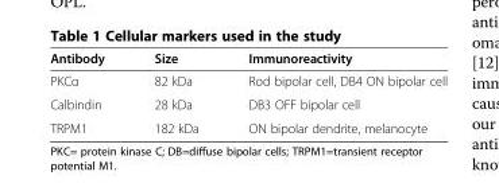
<table><thead><tr><td>Antibody</td><td>Size</td><td>Immunoreactivity</td></tr></thead><tbody><tr><td>PKCα</td><td>82 kDa</td><td>Rod bipolar cell, DB4 ON bipolar cell</td></tr><tr><td>Calbindin</td><td>28 kDa</td><td>DB3 OFF bipolar cell</td></tr><tr><td>TRPM1</td><td>182 kDa</td><td>ON bipolar dendrite, melanocyte</td></tr></tbody></table>